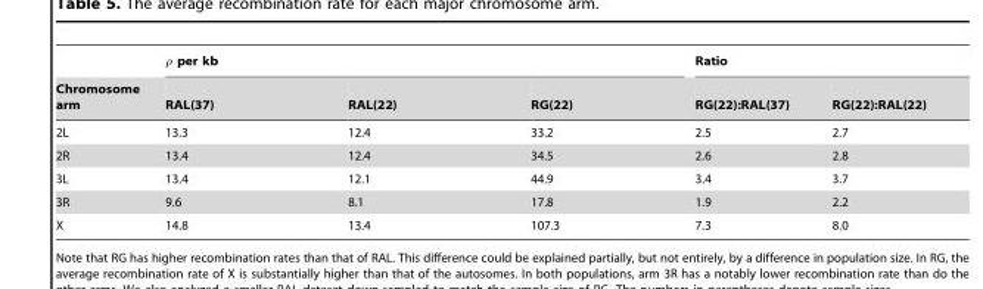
<table><thead><tr><td rowspan="2">Chromosome arm</td><td colspan="3">r per kb</td><td colspan="2">Ratio</td></tr><tr><td>RAL(37)</td><td>RAL(22)</td><td>RG(22)</td><td>RG(22):RAL(37)</td><td>RG(22):RAL(22)</td></tr></thead><tbody><tr><td>2L</td><td>13.3</td><td>12.4</td><td>33.2</td><td>2.5</td><td>2.7</td></tr><tr><td>2R</td><td>13.4</td><td>12.4</td><td>34.5</td><td>2.6</td><td>2.8</td></tr><tr><td>3L</td><td>13.4</td><td>12.1</td><td>44.9</td><td>3.4</td><td>3.7</td></tr><tr><td>3R</td><td>9.6</td><td>8.1</td><td>17.8</td><td>1.9</td><td>2.2</td></tr><tr><td>X</td><td>14.8</td><td>13.4</td><td>107.3</td><td>7.3</td><td>8.0</td></tr></tbody></table>